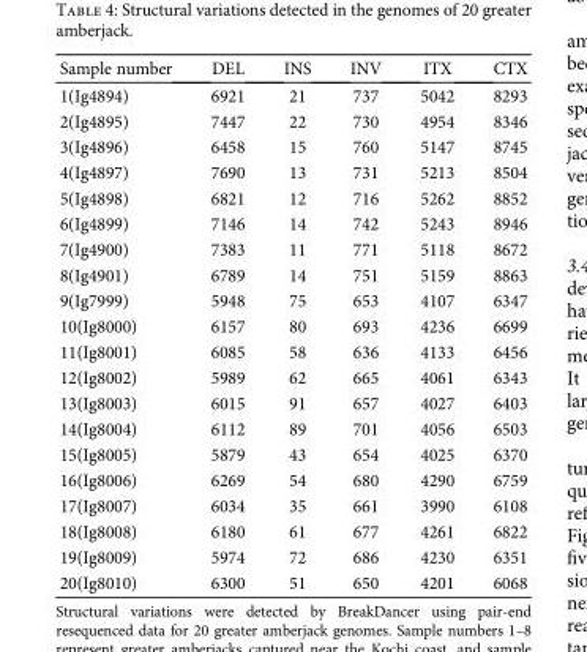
<table><thead><tr><td>Sample number</td><td>DEL</td><td>INS</td><td>INV</td><td>ITX</td><td>CTX</td></tr></thead><tbody><tr><td>1(Ig4894)</td><td>6921</td><td>21</td><td>737</td><td>5042</td><td>8293</td></tr><tr><td>2(Ig4895)</td><td>7447</td><td>22</td><td>730</td><td>4954</td><td>8346</td></tr><tr><td>3(Ig4896)</td><td>6458</td><td>15</td><td>760</td><td>5147</td><td>8745</td></tr><tr><td>4(Ig4897)</td><td>7690</td><td>13</td><td>731</td><td>5213</td><td>8504</td></tr><tr><td>5(Ig4898)</td><td>6821</td><td>12</td><td>716</td><td>5262</td><td>8852</td></tr><tr><td>6(Ig4899)</td><td>7146</td><td>14</td><td>742</td><td>5243</td><td>8946</td></tr><tr><td>7(Ig4900)</td><td>7383</td><td>11</td><td>771</td><td>5118</td><td>8672</td></tr><tr><td>8(Ig4901)</td><td>6789</td><td>14</td><td>751</td><td>5159</td><td>8863</td></tr><tr><td>9(Ig7999)</td><td>5948</td><td>75</td><td>653</td><td>4107</td><td>6347</td></tr><tr><td>10(Ig8000)</td><td>6157</td><td>80</td><td>693</td><td>4236</td><td>6699</td></tr><tr><td>11(Ig8001)</td><td>6085</td><td>58</td><td>636</td><td>4133</td><td>6456</td></tr><tr><td>12(Ig8002)</td><td>5989</td><td>62</td><td>665</td><td>4061</td><td>6343</td></tr><tr><td>13(Ig8003)</td><td>6015</td><td>91</td><td>657</td><td>4027</td><td>6403</td></tr><tr><td>14(Ig8004)</td><td>6112</td><td>89</td><td>701</td><td>4056</td><td>6503</td></tr><tr><td>15(Ig8005)</td><td>5879</td><td>43</td><td>654</td><td>4025</td><td>6370</td></tr><tr><td>16(Ig8006)</td><td>6269</td><td>54</td><td>680</td><td>4290</td><td>6759</td></tr><tr><td>17(Ig8007)</td><td>6034</td><td>35</td><td>661</td><td>3990</td><td>6108</td></tr><tr><td>18(Ig8008)</td><td>6180</td><td>61</td><td>677</td><td>4261</td><td>6822</td></tr><tr><td>19(Ig8009)</td><td>5974</td><td>72</td><td>686</td><td>4230</td><td>6351</td></tr><tr><td>20(Ig8010)</td><td>6300</td><td>51</td><td>650</td><td>4201</td><td>6068</td></tr></tbody></table>